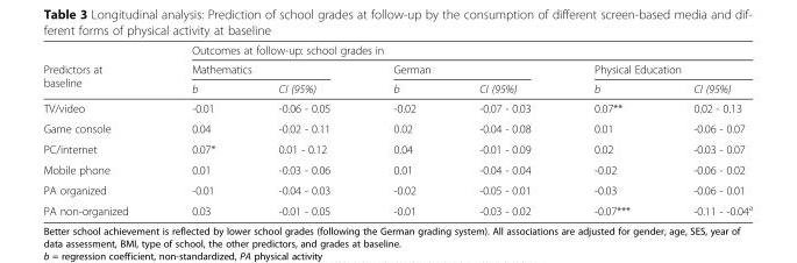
<table><thead><tr><td rowspan="3">Predictors at baseline</td><td colspan="6">Outcomes at follow-up: school grades in</td></tr><tr><td colspan="2">Mathematics</td><td colspan="2">German</td><td colspan="2">Physical Education</td></tr><tr><td>b</td><td>CI (95%)</td><td>b</td><td>CI (95%)</td><td>b</td><td>CI (95%)</td></tr></thead><tbody><tr><td>TV/video</td><td>-0.01</td><td>-0.06 - 0.05</td><td>-0.02</td><td>-0.07 - 0.03</td><td>0.07**</td><td>0.02 - 0.13</td></tr><tr><td>Game console</td><td>0.04</td><td>-0.02 - 0.11</td><td>0.02</td><td>-0.04 - 0.08</td><td>0.01</td><td>-0.06 - 0.07</td></tr><tr><td>PC/internet</td><td>0.07*</td><td>0.01 - 0.12</td><td>0.04</td><td>-0.01 - 0.09</td><td>0.02</td><td>-0.03 - 0.07</td></tr><tr><td>Mobile phone</td><td>0.01</td><td>-0.03 - 0.06</td><td>0.01</td><td>-0.04 - 0.04</td><td>-0.02</td><td>-0.06 - 0.02</td></tr><tr><td>PA organized</td><td>-0.01</td><td>-0.04 - 0.03</td><td>-0.02</td><td>-0.05 - 0.01</td><td>-0.03</td><td>-0.06 - 0.01</td></tr><tr><td>PA non-organized</td><td>0.03</td><td>-0.01 - 0.05</td><td>-0.01</td><td>-0.03 - 0.02</td><td>-0.07***</td><td>-0.11 - -0.04<sup>a</sup></td></tr></tbody></table>